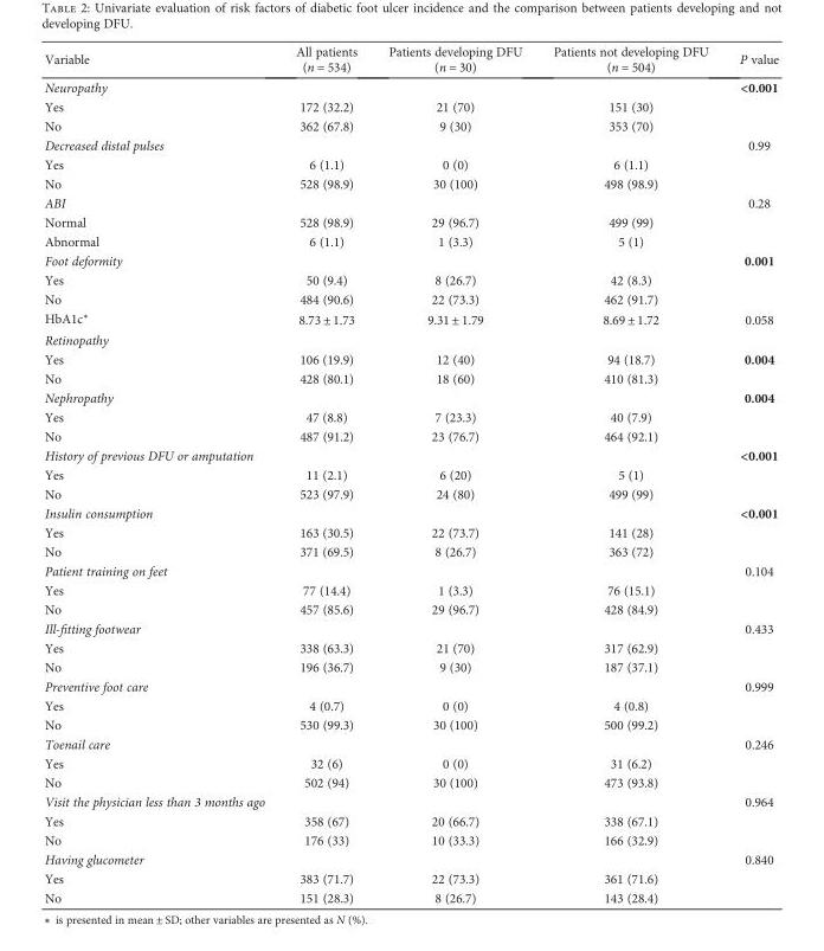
<table><thead><tr><td>Variable</td><td>All patients (n = 534)</td><td>Patients developing DFU (n = 30)</td><td>Patients not developing DFU (n = 504)</td><td>P value</td></tr></thead><tbody><tr><td>Neuropathy</td><td></td><td></td><td></td><td>&lt;0.001</td></tr><tr><td>Yes</td><td>172 (32.2)</td><td>21 (70)</td><td>151 (30)</td><td></td></tr><tr><td>No</td><td>362 (67.8)</td><td>9 (30)</td><td>353 (70)</td><td></td></tr><tr><td>Decreased distal pulses</td><td></td><td></td><td></td><td>0.99</td></tr><tr><td>Yes</td><td>6 (1.1)</td><td>0 (0)</td><td>6 (1.1)</td><td></td></tr><tr><td>No</td><td>528 (98.9)</td><td>30 (100)</td><td>498 (98.9)</td><td></td></tr><tr><td>ABI</td><td></td><td></td><td></td><td>0.28</td></tr><tr><td>Normal</td><td>528 (98.9)</td><td>29 (96.7)</td><td>499 (99)</td><td></td></tr><tr><td>Abnormal</td><td>6 (1.1)</td><td>1 (3.3)</td><td>5 (1)</td><td></td></tr><tr><td>Foot deformity</td><td></td><td></td><td></td><td>0.001</td></tr><tr><td>Yes</td><td>50 (9.4)</td><td>8 (26.7)</td><td>42 (8.3)</td><td></td></tr><tr><td>No</td><td>484 (90.6)</td><td>22 (73.3)</td><td>462 (91.7)</td><td></td></tr><tr><td>HbA1c∗</td><td>8.73 ± 1.73</td><td>9.31 ± 1.79</td><td>8.69 ± 1.72</td><td>0.058</td></tr><tr><td colspan="5">Retinopathy</td></tr><tr><td>Yes</td><td>106 (19.9)</td><td>12 (40)</td><td>94 (18.7)</td><td>0.004</td></tr><tr><td>No</td><td>428 (80.1)</td><td>18 (60)</td><td>410 (81.3)</td><td></td></tr><tr><td>Nephropathy</td><td></td><td></td><td></td><td>0.004</td></tr><tr><td>Yes</td><td>47 (8.8)</td><td>7 (23.3)</td><td>40 (7.9)</td><td></td></tr><tr><td>No</td><td>487 (91.2)</td><td>23 (76.7)</td><td>464 (92.1)</td><td></td></tr><tr><td>History of previous DFU or amputation</td><td></td><td></td><td></td><td>&lt;0.001</td></tr><tr><td>Yes</td><td>11 (2.1)</td><td>6 (20)</td><td>5 (1)</td><td></td></tr><tr><td>No</td><td>523 (97.9)</td><td>24 (80)</td><td>499 (99)</td><td></td></tr><tr><td>Insulin consumption</td><td></td><td></td><td></td><td>&lt;0.001</td></tr><tr><td>Yes</td><td>163 (30.5)</td><td>22 (73.7)</td><td>141 (28)</td><td></td></tr><tr><td>No</td><td>371 (69.5)</td><td>8 (26.7)</td><td>363 (72)</td><td></td></tr><tr><td>Patient training on feet</td><td></td><td></td><td></td><td>0.104</td></tr><tr><td>Yes</td><td>77 (14.4)</td><td>1 (3.3)</td><td>76 (15.1)</td><td></td></tr><tr><td>No</td><td>457 (85.6)</td><td>29 (96.7)</td><td>428 (84.9)</td><td></td></tr><tr><td>Ill-fitting footwear</td><td></td><td></td><td></td><td>0.433</td></tr><tr><td>Yes</td><td>338 (63.3)</td><td>21 (70)</td><td>317 (62.9)</td><td></td></tr><tr><td>No</td><td>196 (36.7)</td><td>9 (30)</td><td>187 (37.1)</td><td></td></tr><tr><td>Preventive foot care</td><td></td><td></td><td></td><td>0.999</td></tr><tr><td>Yes</td><td>4 (0.7)</td><td>0 (0)</td><td>4 (0.8)</td><td></td></tr><tr><td>No</td><td>530 (99.3)</td><td>30 (100)</td><td>500 (99.2)</td><td></td></tr><tr><td>Toenail care</td><td></td><td></td><td></td><td>0.246</td></tr><tr><td>Yes</td><td>32 (6)</td><td>0 (0)</td><td>31 (6.2)</td><td></td></tr><tr><td>No</td><td>502 (94)</td><td>30 (100)</td><td>473 (93.8)</td><td></td></tr><tr><td>Visit the physician less than 3 months ago</td><td></td><td></td><td></td><td>0.964</td></tr><tr><td>Yes</td><td>358 (67)</td><td>20 (66.7)</td><td>338 (67.1)</td><td></td></tr><tr><td>No</td><td>176 (33)</td><td>10 (33.3)</td><td>166 (32.9)</td><td></td></tr><tr><td>Having glucometer</td><td></td><td></td><td></td><td>0.840</td></tr><tr><td>Yes</td><td>383 (71.7)</td><td>22 (73.3)</td><td>361 (71.6)</td><td></td></tr><tr><td>No</td><td>151 (28.3)</td><td>8 (26.7)</td><td>143 (28.4)</td><td></td></tr></tbody></table>